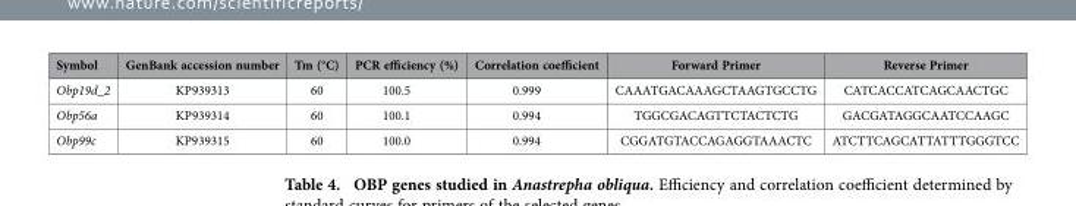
<table><thead><tr><td>Symbol</td><td>GenBank accession number</td><td>Tm (°C)</td><td>PCR efficiency (%)</td><td>Correlation coefficient</td><td>Forward Primer</td><td>Reverse Primer</td></tr></thead><tbody><tr><td>Obp19d_2</td><td>KP939313</td><td>60</td><td>100.5</td><td>0.999</td><td>CAAATGACAAAGCTAAGTGCCTG</td><td>CATCACCATCAGCAACTGC</td></tr><tr><td>Obp56a</td><td>KP939314</td><td>60</td><td>100.1</td><td>0.994</td><td>TGGCGACAGTTCTACTCTG</td><td>GACGATAGGCAATCCAAGC</td></tr><tr><td>Obp99c</td><td>KP939315</td><td>60</td><td>100.0</td><td>0.994</td><td>CGGATGTACCAGAGGTAAACTC</td><td>ATCTTCAGCATTATTTGGGTCC</td></tr></tbody></table>